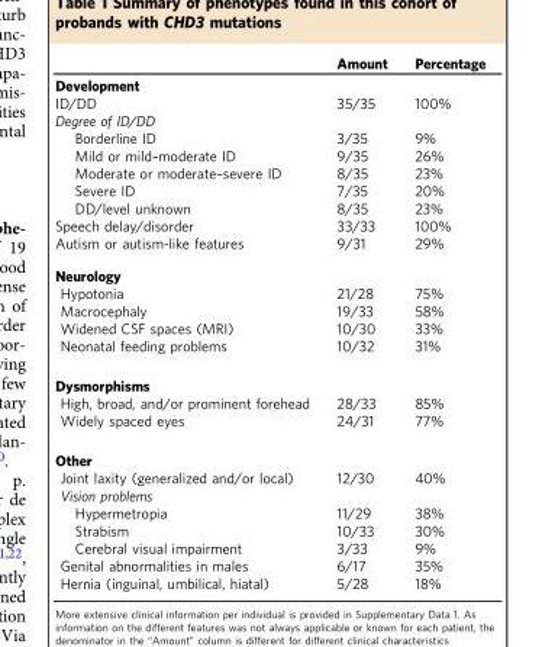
<table><thead><tr><td></td><td>Amount</td><td>Percentage</td></tr></thead><tbody><tr><td colspan="3">Development</td></tr><tr><td>ID/DD</td><td>35/35</td><td>100%</td></tr><tr><td colspan="3">Degree of ID/DD</td></tr><tr><td>Borderline ID</td><td>3/35</td><td>9%</td></tr><tr><td>Mild or mild–moderate ID</td><td>9/35</td><td>26%</td></tr><tr><td>Moderate or moderate–severe ID</td><td>8/35</td><td>23%</td></tr><tr><td>Severe ID</td><td>7/35</td><td>20%</td></tr><tr><td>DD/level unknown</td><td>8/35</td><td>23%</td></tr><tr><td>Speech delay/disorder</td><td>33/33</td><td>100%</td></tr><tr><td>Autism or autism-like features</td><td>9/31</td><td>29%</td></tr><tr><td colspan="3">Neurology</td></tr><tr><td>Hypotonia</td><td>21/28</td><td>75%</td></tr><tr><td>Macrocephaly</td><td>19/33</td><td>58%</td></tr><tr><td>Widened CSF spaces (MRI)</td><td>10/30</td><td>33%</td></tr><tr><td>Neonatal feeding problems</td><td>10/32</td><td>31%</td></tr><tr><td colspan="3">Dysmorphisms</td></tr><tr><td>High, broad, and/or prominent forehead</td><td>28/33</td><td>85%</td></tr><tr><td>Widely spaced eyes</td><td>24/31</td><td>77%</td></tr><tr><td colspan="3">Other</td></tr><tr><td>Joint laxity (generalized and/or local)</td><td>12/30</td><td>40%</td></tr><tr><td colspan="3">Vision problems</td></tr><tr><td>Hypermetropia</td><td>11/29</td><td>38%</td></tr><tr><td>Strabism</td><td>10/33</td><td>30%</td></tr><tr><td>Cerebral visual impairment</td><td>3/33</td><td>9%</td></tr><tr><td>Genital abnormalities in males</td><td>6/17</td><td>35%</td></tr><tr><td>Hernia (inguinal, umbilical, hiatal)</td><td>5/28</td><td>18%</td></tr></tbody></table>